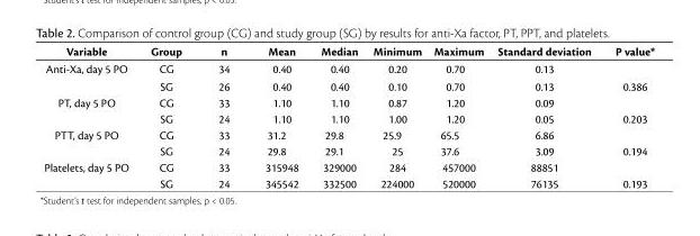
<table><thead><tr><td>Variable</td><td>Group</td><td>n</td><td>Mean</td><td>Median</td><td>Minimum</td><td>Maximum</td><td>Standard deviation</td><td>P value*</td></tr></thead><tbody><tr><td rowspan="2">Anti-Xa, day 5 PO</td><td>CG</td><td>34</td><td>0.40</td><td>0.40</td><td>0.20</td><td>0.70</td><td>0.13</td><td></td></tr><tr><td>SG</td><td>26</td><td>0.40</td><td>0.40</td><td>0.10</td><td>0.70</td><td>0.13</td><td>0.386</td></tr><tr><td rowspan="2">PT, day 5 PO</td><td>CG</td><td>33</td><td>1.10</td><td>1.10</td><td>0.87</td><td>1.20</td><td>0.09</td><td></td></tr><tr><td>SG</td><td>24</td><td>1.10</td><td>1.10</td><td>1.00</td><td>1.20</td><td>0.05</td><td>0.203</td></tr><tr><td rowspan="2">PTT, day 5 PO</td><td>CG</td><td>33</td><td>31.2</td><td>29.8</td><td>25.9</td><td>65.5</td><td>6.86</td><td></td></tr><tr><td>SG</td><td>24</td><td>29.8</td><td>29.1</td><td>25</td><td>37.6</td><td>3.09</td><td>0.194</td></tr><tr><td rowspan="2">Platelets, day 5 PO</td><td>CG</td><td>33</td><td>315948</td><td>329000</td><td>284</td><td>457000</td><td>88851</td><td></td></tr><tr><td>SG</td><td>24</td><td>345542</td><td>332500</td><td>224000</td><td>520000</td><td>76135</td><td>0.193</td></tr></tbody></table>